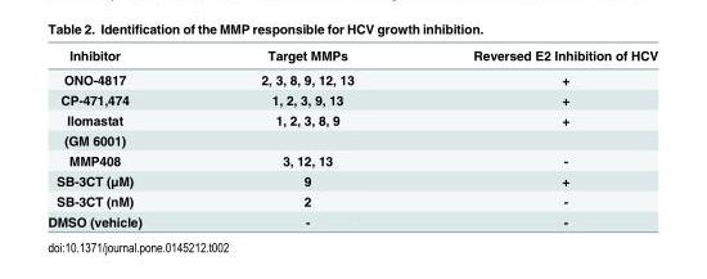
<table><thead><tr><td>Inhibitor</td><td>Target MMPs</td><td>Reversed E2 Inhibition of HCV</td></tr></thead><tbody><tr><td>ONO-4817</td><td>2, 3, 8, 9, 12, 13</td><td>+</td></tr><tr><td>CP-471,474</td><td>1, 2, 3, 9, 13</td><td>+</td></tr><tr><td>Ilomastat</td><td>1, 2, 3, 8, 9</td><td>+</td></tr><tr><td colspan="3">(GM 6001)</td></tr><tr><td>MMP408</td><td>3, 12, 13</td><td>-</td></tr><tr><td>SB-3CT (μM)</td><td>9</td><td>+</td></tr><tr><td>SB-3CT (nM)</td><td>2</td><td>-</td></tr><tr><td>DMSO (vehicle)</td><td>-</td><td>-</td></tr></tbody></table>